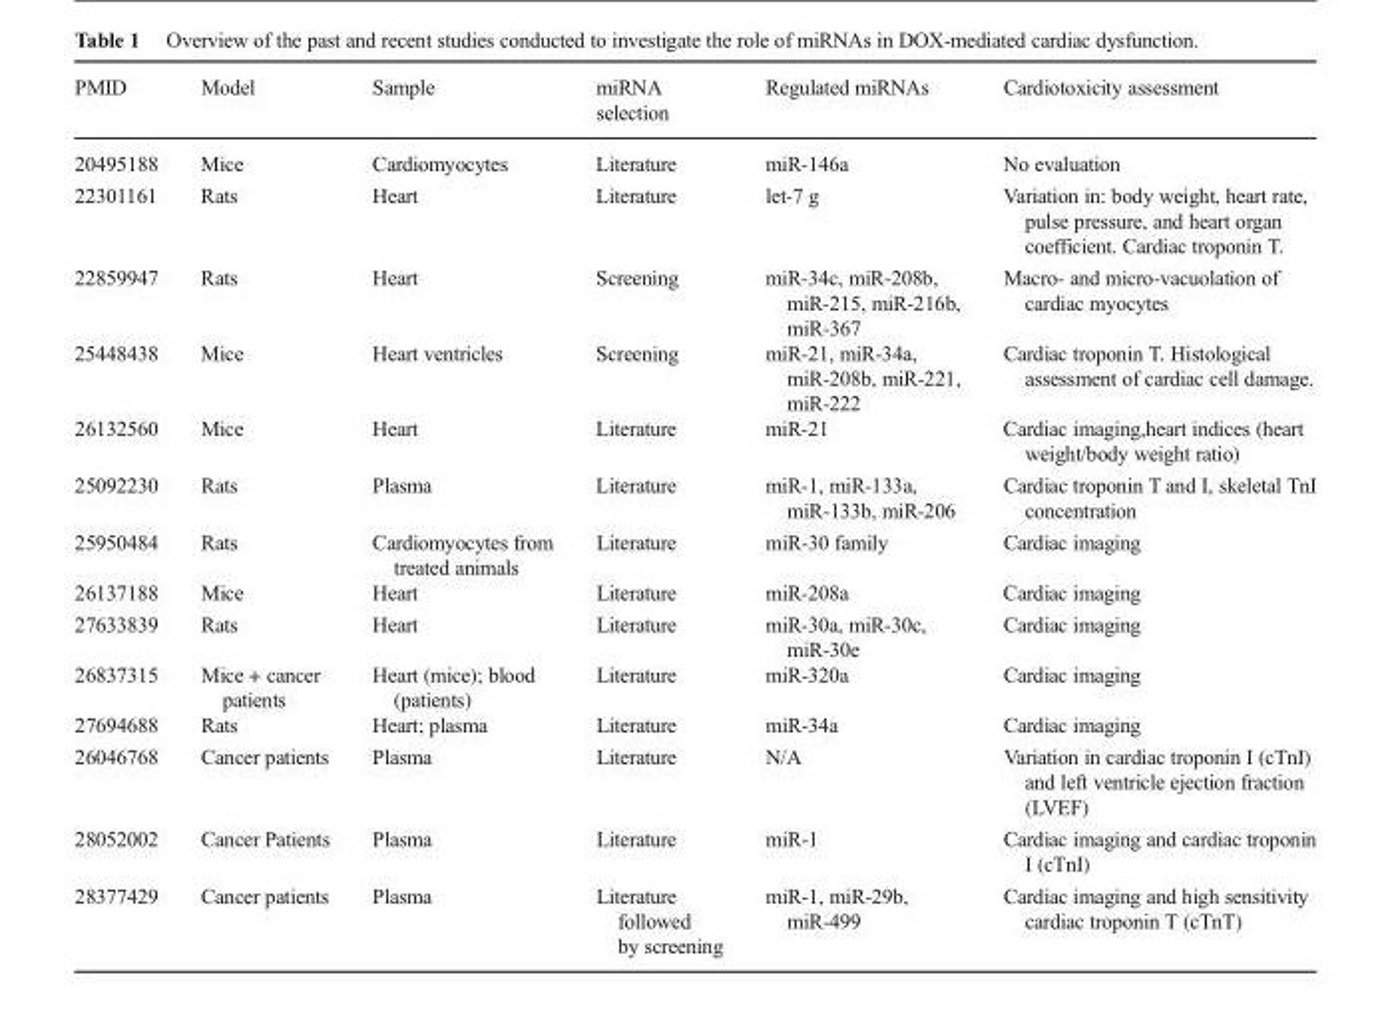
<table><thead><tr><td>PMID</td><td>Model</td><td>Sample</td><td>miRNA selection</td><td>Regulated miRNAs</td><td>Cardiotoxicity assessment</td></tr></thead><tbody><tr><td>20495188</td><td>Mice</td><td>Cardiomyocytes</td><td>Literature</td><td>miR-146a</td><td>No evaluation</td></tr><tr><td>22301161</td><td>Rats</td><td>Heart</td><td>Literature</td><td>let-7 g</td><td>Variation in: body weight, heart rate, pulse pressure, and heart organ coefficient. Cardiac troponin T.</td></tr><tr><td>22859947</td><td>Rats</td><td>Heart</td><td>Screening</td><td>miR-34c, miR-208b, miR-215, miR-216b, miR-367</td><td>Macro- and micro-vacuolation of cardiac myocytes</td></tr><tr><td>25448438</td><td>Mice</td><td>Heart ventricles</td><td>Screening</td><td>miR-21, miR-34a, miR-208b, miR-221, miR-222</td><td>Cardiac troponin T. Histological assessment of cardiac cell damage.</td></tr><tr><td>26132560</td><td>Mice</td><td>Heart</td><td>Literature</td><td>miR-21</td><td>Cardiac imaging,heart indices (heart weight/body weight ratio)</td></tr><tr><td>25092230</td><td>Rats</td><td>Plasma</td><td>Literature</td><td>miR-1, miR-133a, miR-133b, miR-206</td><td>Cardiac troponin T and I, skeletal TnI concentration</td></tr><tr><td>25950484</td><td>Rats</td><td>Cardiomyocytes from treated animals</td><td>Literature</td><td>miR-30 family</td><td>Cardiac imaging</td></tr><tr><td>26137188</td><td>Mice</td><td>Heart</td><td>Literature</td><td>miR-208a</td><td>Cardiac imaging</td></tr><tr><td>27633839</td><td>Rats</td><td>Heart</td><td>Literature</td><td>miR-30a, miR-30c, miR-30e</td><td>Cardiac imaging</td></tr><tr><td>26837315</td><td>Mice + cancer patients</td><td>Heart (mice); blood (patients)</td><td>Literature</td><td>miR-320a</td><td>Cardiac imaging</td></tr><tr><td>27694688</td><td>Rats</td><td>Heart; plasma</td><td>Literature</td><td>miR-34a</td><td>Cardiac imaging</td></tr><tr><td>26046768</td><td>Cancer patients</td><td>Plasma</td><td>Literature</td><td>N/A</td><td>Variation in cardiac troponin I (cTnI) and left ventricle ejection fraction (LVEF)</td></tr><tr><td>28052002</td><td>Cancer Patients</td><td>Plasma</td><td>Literature</td><td>miR-1</td><td>Cardiac imaging and cardiac troponin I (cTnI)</td></tr><tr><td>28377429</td><td>Cancer patients</td><td>Plasma</td><td>Literature followed by screening</td><td>miR-1, miR-29b, miR-499</td><td>Cardiac imaging and high sensitivity cardiac troponin T (cTnT)</td></tr></tbody></table>